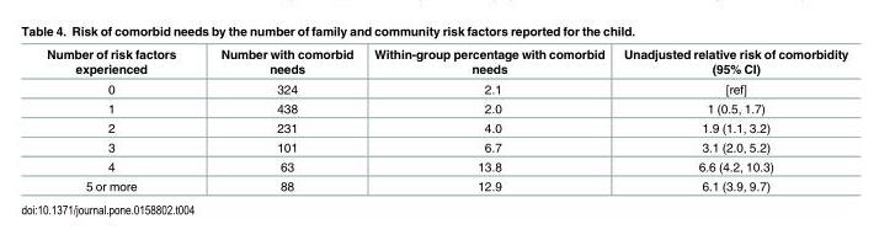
<table><thead><tr><td>Number of risk factors experienced</td><td>Number with comorbid needs</td><td>Within-group percentage with comorbid needs</td><td>Unadjusted relative risk of comorbidity (95% CI)</td></tr></thead><tbody><tr><td>0</td><td>324</td><td>2.1</td><td>[ref]</td></tr><tr><td>1</td><td>438</td><td>2.0</td><td>1 (0.5, 1.7)</td></tr><tr><td>2</td><td>231</td><td>4.0</td><td>1.9 (1.1, 3.2)</td></tr><tr><td>3</td><td>101</td><td>6.7</td><td>3.1 (2.0, 5.2)</td></tr><tr><td>4</td><td>63</td><td>13.8</td><td>6.6 (4.2, 10.3)</td></tr><tr><td>5 or more</td><td>88</td><td>12.9</td><td>6.1 (3.9, 9.7)</td></tr></tbody></table>